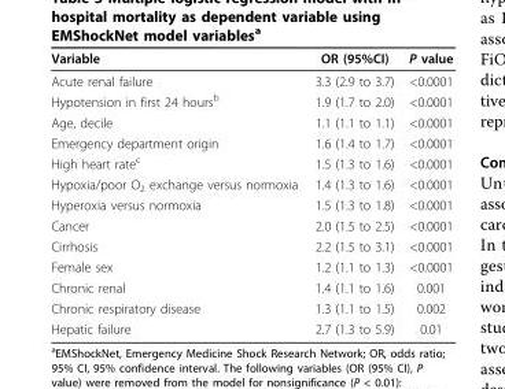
<table><thead><tr><td>Variable</td><td>OR (95%CI)</td><td>P value</td></tr></thead><tbody><tr><td>Acute renal failure</td><td>3.3 (2.9 to 3.7)</td><td>&lt;0.0001</td></tr><tr><td>Hypotension in first 24 hours<sup>b</sup></td><td>1.9 (1.7 to 2.0)</td><td>&lt;0.0001</td></tr><tr><td>Age, decile</td><td>1.1 (1.1 to 1.1)</td><td>&lt;0.0001</td></tr><tr><td>Emergency department origin</td><td>1.6 (1.4 to 1.7)</td><td>&lt;0.0001</td></tr><tr><td>High heart rate<sup>c</sup></td><td>1.5 (1.3 to 1.6)</td><td>&lt;0.0001</td></tr><tr><td>Hypoxia/poor O<sub>2</sub> exchange versus normoxia</td><td>1.4 (1.3 to 1.6)</td><td>&lt;0.0001</td></tr><tr><td>Hyperoxia versus normoxia</td><td>1.5 (1.3 to 1.8)</td><td>&lt;0.0001</td></tr><tr><td>Cancer</td><td>2.0 (1.5 to 2.5)</td><td>&lt;0.0001</td></tr><tr><td>Cirrhosis</td><td>2.2 (1.5 to 3.1)</td><td>&lt;0.0001</td></tr><tr><td>Female sex</td><td>1.2 (1.1 to 1.3)</td><td>&lt;0.0001</td></tr><tr><td>Chronic renal</td><td>1.4 (1.1 to 1.6)</td><td>0.001</td></tr><tr><td>Chronic respiratory disease</td><td>1.3 (1.1 to 1.5)</td><td>0.002</td></tr><tr><td>Hepatic failure</td><td>2.7 (1.3 to 5.9)</td><td>0.01</td></tr></tbody></table>